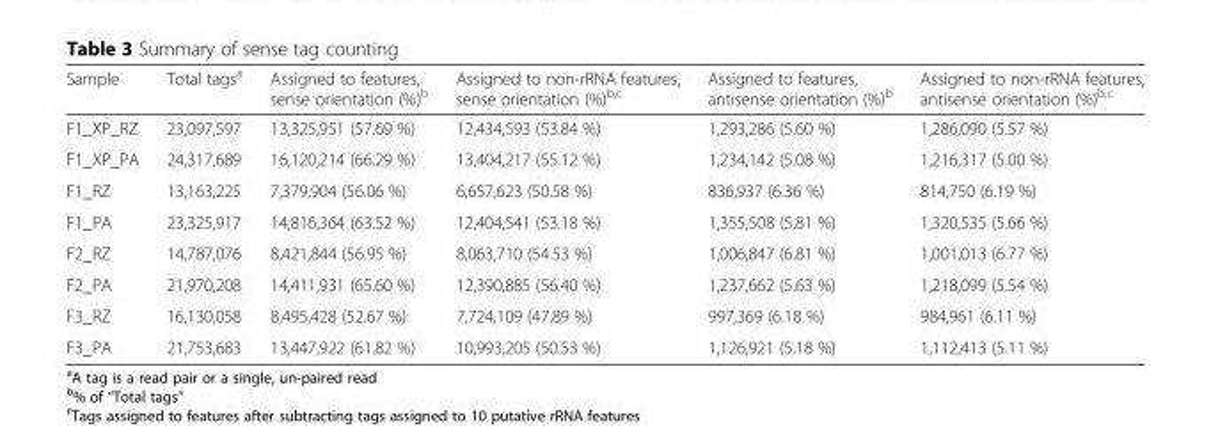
<table><thead><tr><td>Sample</td><td>Total tags<sup>a</sup></td><td>Assigned to features, sense orientation (%)<sup>b</sup></td><td>Assigned to non-rRNA features, sense orientation (%)<sup>b,c</sup></td><td>Assigned to features, antisense orientation (%)<sup>b</sup></td><td>Assigned to non-rRNA features, antisense orientation (%)<sup>b,c</sup></td></tr></thead><tbody><tr><td>F1_XP_RZ</td><td>23,097,597</td><td>13,325,951 (57.69 %)</td><td>12,434,593 (53.84 %)</td><td>1,293,286 (5.60 %)</td><td>1,286,090 (5.57 %)</td></tr><tr><td>F1_XP_PA</td><td>24,317,689</td><td>16,120,214 (66.29 %)</td><td>13,404,217 (55.12 %)</td><td>1,234,142 (5.08 %)</td><td>1,216,317 (5.00 %)</td></tr><tr><td>F1_RZ</td><td>13,163,225</td><td>7,379,904 (56.06 %)</td><td>6,657,623 (50.58 %)</td><td>836,937 (6.36 %)</td><td>814,750 (6.19 %)</td></tr><tr><td>F1_PA</td><td>23,325,917</td><td>14,816,364 (63.52 %)</td><td>12,404,541 (53.18 %)</td><td>1,355,508 (5.81 %)</td><td>1,320,535 (5.66 %)</td></tr><tr><td>F2_RZ</td><td>14,787,076</td><td>8,421,844 (56.95 %)</td><td>8,063,710 (54.53 %)</td><td>1,006,847 (6.81 %)</td><td>1,001,013 (6.77 %)</td></tr><tr><td>F2_PA</td><td>21,970,208</td><td>14,411,931 (65.60 %)</td><td>12,390,885 (56.40 %)</td><td>1,237,662 (5.63 %)</td><td>1,218,099 (5.54 %)</td></tr><tr><td>F3_RZ</td><td>16,130,058</td><td>8,495,428 (52.67 %)</td><td>7,724,109 (47.89 %)</td><td>997,369 (6.18 %)</td><td>984,961 (6.11 %)</td></tr><tr><td>F3_PA</td><td>21,753,683</td><td>13,447,922 (61.82 %)</td><td>10,993,205 (50.53 %)</td><td>1,126,921 (5.18 %)</td><td>1,112,413 (5.11 %)</td></tr></tbody></table>